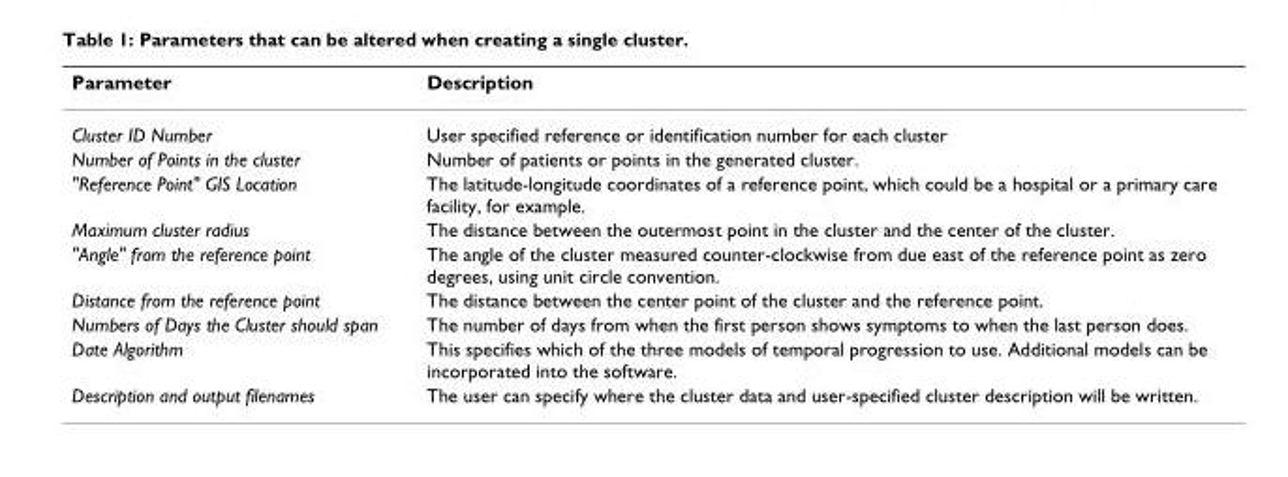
<table><thead><tr><td>Parameter</td><td>Description</td></tr></thead><tbody><tr><td>Cluster ID Number</td><td>User specified reference or identification number for each cluster</td></tr><tr><td>Number of Points in the cluster</td><td>Number of patients or points in the generated cluster.</td></tr><tr><td>&quot;Reference Point&quot; GIS Location</td><td>The latitude-longitude coordinates of a reference point, which could be a hospital or a primary care facility, for example.</td></tr><tr><td>Maximum cluster radius</td><td>The distance between the outermost point in the cluster and the center of the cluster.</td></tr><tr><td>&quot;Angle&quot; from the reference point</td><td>The angle of the cluster measured counter-clockwise from due east of the reference point as zero degrees, using unit circle convention.</td></tr><tr><td>Distance from the reference point</td><td>The distance between the center point of the cluster and the reference point.</td></tr><tr><td>Numbers of Days the Cluster should span</td><td>The number of days from when the first person shows symptoms to when the last person does.</td></tr><tr><td>Date Algorithm</td><td>This specifies which of the three models of temporal progression to use. Additional models can be incorporated into the software.</td></tr><tr><td>Description and output filenames</td><td>The user can specify where the cluster data and user-specified cluster description will be written.</td></tr></tbody></table>